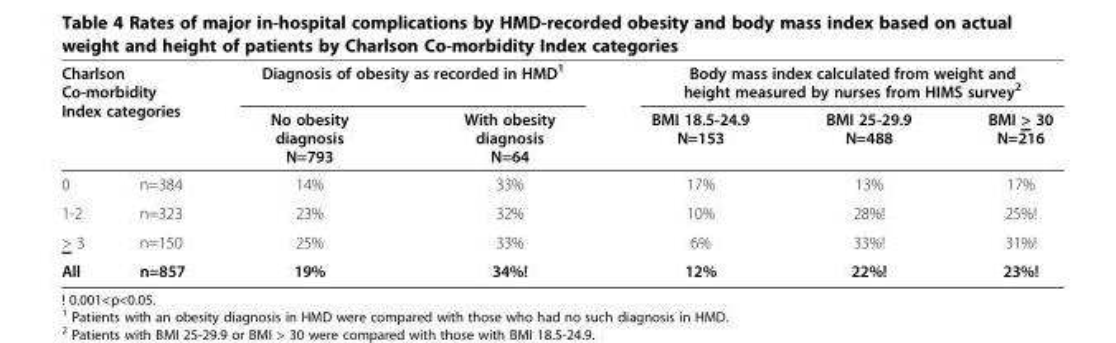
<table><thead><tr><td rowspan="2" colspan="2">Charlson Co-morbidity Index categories</td><td colspan="2">Diagnosis of obesity as recorded in HMD<sup>1</sup></td><td colspan="3">Body mass index calculated from weight and height measured by nurses from HIMS survey<sup>2</sup></td></tr><tr><td rowspan="2">No obesity diagnosis N=793 14%</td><td rowspan="2">With obesity diagnosis N=64 33%</td><td rowspan="2">BMI 18.5-24.9 N=153 17%</td><td rowspan="2">BMI 25-29.9 N=488 13%</td><td rowspan="2">BMI &gt; 30 N=216 17%</td></tr><tr><td>0</td><td>n=384</td></tr></thead><tbody><tr><td>1-2</td><td>n=323</td><td>23%</td><td>32%</td><td>10%</td><td>28%!</td><td>25%!</td></tr><tr><td>&gt; 3</td><td>n=150</td><td>25%</td><td>33%</td><td>6%</td><td>33%!</td><td>31%!</td></tr><tr><td>All</td><td>n=857</td><td>19%</td><td>34%!</td><td>12%</td><td>22%!</td><td>23%!</td></tr></tbody></table>